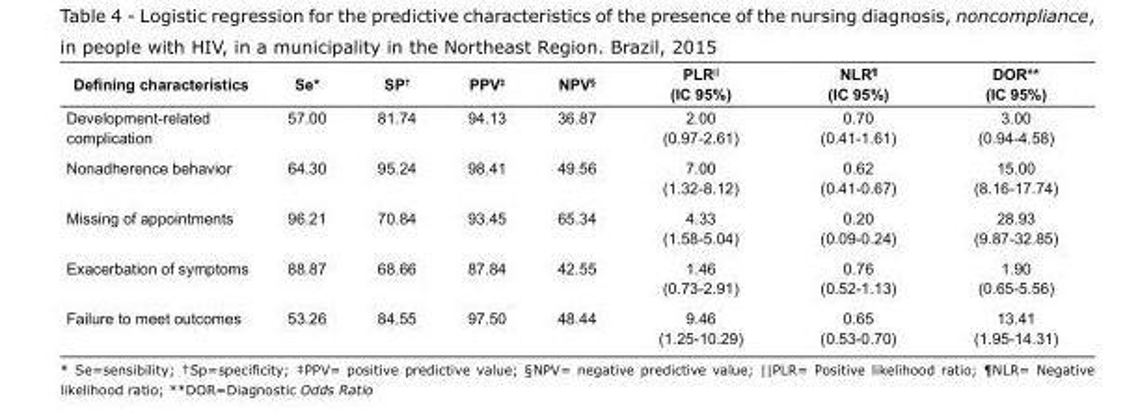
<table><tbody><tr><td>Defining characteristics</td><td>Se*</td><td>SP<sup>†</sup></td><td>PPV<sup>‡</sup></td><td>NPV<sup>§</sup></td><td>PLR<sup>||</sup> (IC 95%)</td><td>NLR<sup>¶</sup> (IC 95%)</td><td>DOR** (IC 95%)</td></tr><tr><td>Development-related complication</td><td>57.00</td><td>81.74</td><td>94.13</td><td>36.87</td><td>2.00 (0.97-2.61)</td><td>0.70 (0.41-1.61)</td><td>3.00 (0.94-4.58)</td></tr><tr><td>Nonadherence behavior</td><td>64.30</td><td>95.24</td><td>98.41</td><td>49.56</td><td>7.00 (1.32-8.12)</td><td>0.62 (0.41-0.67)</td><td>15.00 (8.16-17.74)</td></tr><tr><td>Missing of appointments</td><td>96.21</td><td>70.84</td><td>93.45</td><td>65.34</td><td>4.33 (1.58-5.04)</td><td>0.20 (0.09-0.24)</td><td>28.93 (9.87-32.85)</td></tr><tr><td>Exacerbation of symptoms</td><td>88.87</td><td>68.66</td><td>87.84</td><td>42.55</td><td>1.46 (0.73-2.91)</td><td>0.76 (0.52-1.13)</td><td>1.90 (0.65-5.56)</td></tr><tr><td>Failure to meet outcomes</td><td>53.26</td><td>84.55</td><td>97.50</td><td>48.44</td><td>9.46 (1.25-10.29)</td><td>0.65 (0.53-0.70)</td><td>13.41 (1.95-14.31)</td></tr></tbody></table>